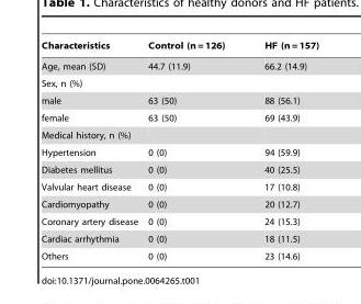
<table><thead><tr><td>Characteristics</td><td>Control (n = 126)</td><td>HF (n = 157)</td></tr></thead><tbody><tr><td>Age, mean (SD)</td><td>44.7 (11.9)</td><td>66.2 (14.9)</td></tr><tr><td colspan="3">Sex, n (%)</td></tr><tr><td>male</td><td>63 (50)</td><td>88 (56.1)</td></tr><tr><td>female</td><td>63 (50)</td><td>69 (43.9)</td></tr><tr><td colspan="3">Medical history, n (%)</td></tr><tr><td>Hypertension</td><td>0 (0)</td><td>94 (59.9)</td></tr><tr><td>Diabetes mellitus</td><td>0 (0)</td><td>40 (25.5)</td></tr><tr><td>Valvular heart disease</td><td>0 (0)</td><td>17 (10.8)</td></tr><tr><td>Cardiomyopathy</td><td>0 (0)</td><td>20 (12.7)</td></tr><tr><td>Coronary artery disease</td><td>0 (0)</td><td>24 (15.3)</td></tr><tr><td>Cardiac arrhythmia</td><td>0 (0)</td><td>18 (11.5)</td></tr><tr><td>Others</td><td>0 (0)</td><td>23 (14.6)</td></tr></tbody></table>